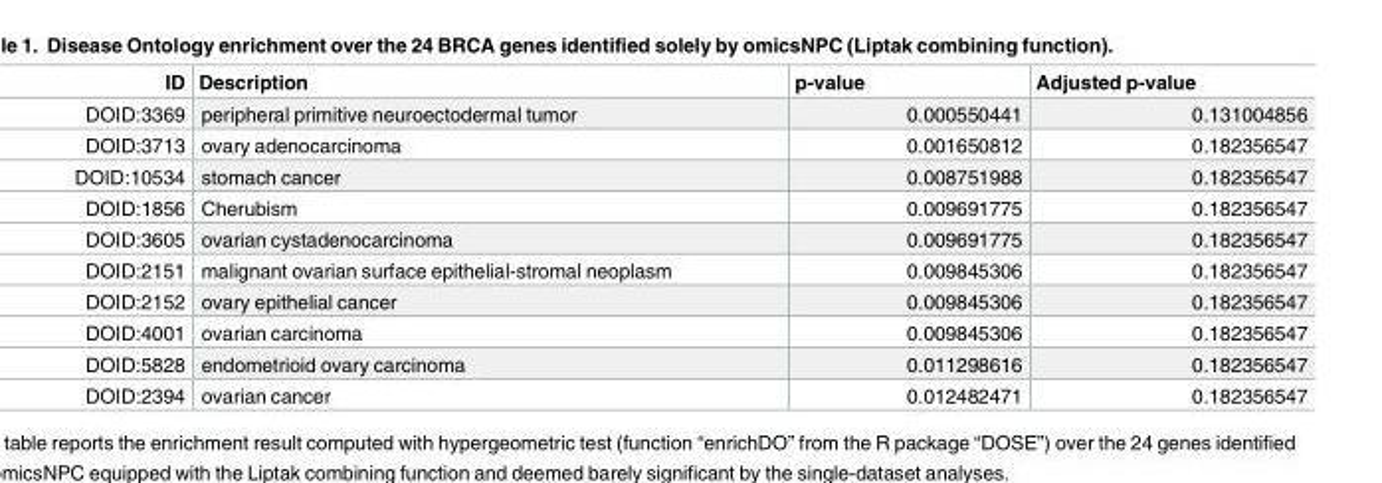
<table><thead><tr><td>ID</td><td>Description</td><td>p-value</td><td>Adjusted p-value</td></tr></thead><tbody><tr><td>DOID:3369</td><td>peripheral primitive neuroectodermal tumor</td><td>0.000550441</td><td>0.131004856</td></tr><tr><td>DOID:3713</td><td>ovary adenocarcinoma</td><td>0.001650812</td><td>0.182356547</td></tr><tr><td>DOID:10534</td><td>stomach cancer</td><td>0.008751988</td><td>0.182356547</td></tr><tr><td>DOID:1856</td><td>Cherubism</td><td>0.009691775</td><td>0.182356547</td></tr><tr><td>DOID:3605</td><td>ovarian cystadenocarcinoma</td><td>0.009691775</td><td>0.182356547</td></tr><tr><td>DOID:2151</td><td>malignant ovarian surface epithelial-stromal neoplasm</td><td>0.009845306</td><td>0.182356547</td></tr><tr><td>DOID:2152</td><td>ovary epithelial cancer</td><td>0.009845306</td><td>0.182356547</td></tr><tr><td>DOID:4001</td><td>ovarian carcinoma</td><td>0.009845306</td><td>0.182356547</td></tr><tr><td>DOID:5828</td><td>endometrioid ovary carcinoma</td><td>0.011298616</td><td>0.182356547</td></tr><tr><td>DOID:2394</td><td>ovarian cancer</td><td>0.012482471</td><td>0.182356547</td></tr></tbody></table>